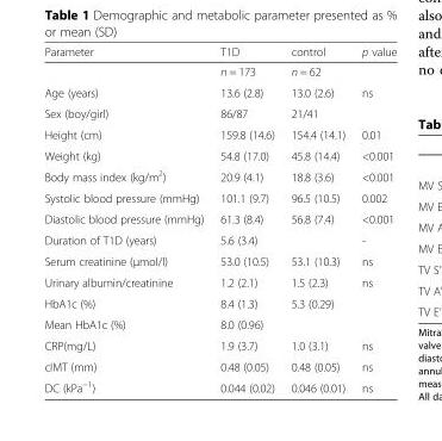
<table><thead><tr><td>Parameter</td><td>T1D</td><td>control</td><td>p value</td></tr></thead><tbody><tr><td></td><td>n = 173</td><td>n = 62</td><td></td></tr><tr><td>Age (years)</td><td>13.6 (2.8)</td><td>13.0 (2.6)</td><td>ns</td></tr><tr><td>Sex (boy/girl)</td><td>86/87</td><td>21/41</td><td></td></tr><tr><td>Height (cm)</td><td>159.8 (14.6)</td><td>154.4 (14.1)</td><td>0.01</td></tr><tr><td>Weight (kg)</td><td>54.8 (17.0)</td><td>45.8 (14.4)</td><td>&lt;0.001</td></tr><tr><td>Body mass index (kg/m<sup>2</sup>)</td><td>20.9 (4.1)</td><td>18.8 (3.6)</td><td>&lt;0.001</td></tr><tr><td>Systolic blood pressure (mmHg)</td><td>101.1 (9.7)</td><td>96.5 (10.5)</td><td>0.002</td></tr><tr><td>Diastolic blood pressure (mmHg)</td><td>61.3 (8.4)</td><td>56.8 (7.4)</td><td>&lt;0.001</td></tr><tr><td>Duration of T1D (years)</td><td>5.6 (3.4)</td><td></td><td>-</td></tr><tr><td>Serum creatinine (μmol/l)</td><td>53.0 (10.5)</td><td>53.1 (10.3)</td><td>ns</td></tr><tr><td>Urinary albumin/creatinine</td><td>1.2 (2.1)</td><td>1.5 (2.3)</td><td>ns</td></tr><tr><td>HbA1c (%)</td><td>8.4 (1.3)</td><td>5.3 (0.29)</td><td></td></tr><tr><td>Mean HbA1c (%)</td><td>8.0 (0.96)</td><td></td><td></td></tr><tr><td>CRP(mg/L)</td><td>1.9 (3.7)</td><td>1.0 (3.1)</td><td>ns</td></tr><tr><td>cIMT (mm)</td><td>0.48 (0.05)</td><td>0.48 (0.05)</td><td>ns</td></tr><tr><td>DC (kPa<sup>−1</sup>)</td><td>0.044 (0.02)</td><td>0.046 (0.01)</td><td>ns</td></tr></tbody></table>